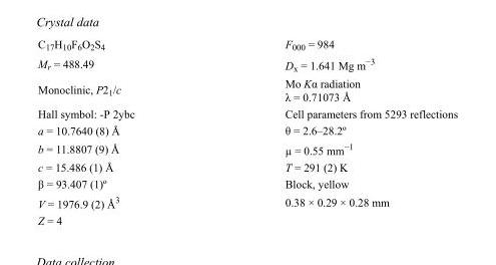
<table><tbody><tr><td>C<sub>17</sub>H<sub>10</sub>F<sub>6</sub>O<sub>2</sub>S<sub>4</sub></td><td>F<sub>000</sub> = 984</td></tr><tr><td>M<sub>r</sub> = 488.49</td><td>D<sub>x</sub> = 1.641 Mg m<sup>−3</sup></td></tr><tr><td>Monoclinic, P2<sub>1</sub>/c</td><td>Mo Kα radiation λ = 0.71073 Å</td></tr><tr><td>Hall symbol: -P 2ybc</td><td>Cell parameters from 5293 reflections</td></tr><tr><td>a = 10.7640 (8) Å</td><td>θ = 2.6–28.2º</td></tr><tr><td>b = 11.8807 (9) Å</td><td>µ = 0.55 mm<sup>−1</sup></td></tr><tr><td>c = 15.486 (1) Å</td><td>T = 291 (2) K</td></tr><tr><td>β = 93.407 (1)º</td><td>Block, yellow</td></tr><tr><td>V = 1976.9 (2) Å<sup>3</sup></td><td>0.38 × 0.29 × 0.28 mm</td></tr><tr><td>Z = 4</td><td></td></tr></tbody></table>